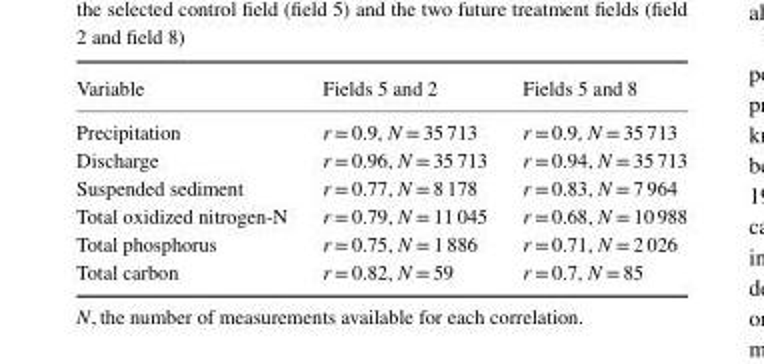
<table><thead><tr><td>Variable</td><td>Fields 5 and 2</td><td>Fields 5 and 8</td></tr></thead><tbody><tr><td>Precipitation</td><td>r = 0.9, N = 35 713</td><td>r = 0.9, N = 35 713</td></tr><tr><td>Discharge</td><td>r = 0.96, N = 35 713</td><td>r = 0.94, N = 35 713</td></tr><tr><td>Suspended sediment</td><td>r = 0.77, N = 8 178</td><td>r = 0.83, N = 7 964</td></tr><tr><td>Total oxidized nitrogen-N</td><td>r = 0.79, N = 11 045</td><td>r = 0.68, N = 10 988</td></tr><tr><td>Total phosphorus</td><td>r = 0.75, N = 1 886</td><td>r = 0.71, N = 2 026</td></tr><tr><td>Total carbon</td><td>r = 0.82, N = 59</td><td>r = 0.7, N = 85</td></tr></tbody></table>